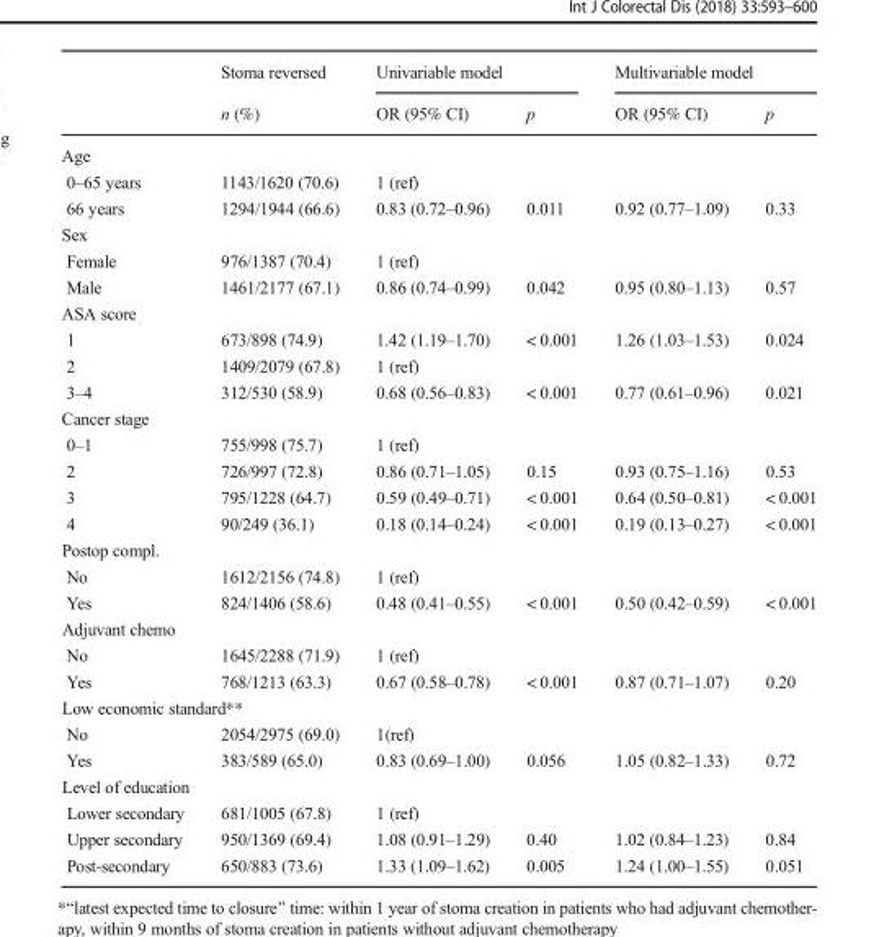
<table><thead><tr><td rowspan="2"></td><td rowspan="2">Stoma reversed n (%)</td><td colspan="2">Univariable model</td><td colspan="2">Multivariable model</td></tr><tr><td>OR (95% CI)</td><td>p</td><td>OR (95% CI)</td><td>p</td></tr></thead><tbody><tr><td colspan="6">Age</td></tr><tr><td>0–65 years</td><td>1143/1620 (70.6)</td><td>1 (ref)</td><td></td><td></td><td></td></tr><tr><td>66 years</td><td>1294/1944 (66.6)</td><td>0.83 (0.72–0.96)</td><td>0.011</td><td>0.92 (0.77–1.09)</td><td>0.33</td></tr><tr><td colspan="6">Sex</td></tr><tr><td>Female</td><td>976/1387 (70.4)</td><td>1 (ref)</td><td></td><td></td><td></td></tr><tr><td>Male</td><td>1461/2177 (67.1)</td><td>0.86 (0.74–0.99)</td><td>0.042</td><td>0.95 (0.80–1.13)</td><td>0.57</td></tr><tr><td colspan="6">ASA score</td></tr><tr><td>1</td><td>673/898 (74.9)</td><td>1.42 (1.19–1.70)</td><td>&lt; 0.001</td><td>1.26 (1.03–1.53)</td><td>0.024</td></tr><tr><td>2</td><td>1409/2079 (67.8)</td><td>1 (ref)</td><td></td><td></td><td></td></tr><tr><td>3–4</td><td>312/530 (58.9)</td><td>0.68 (0.56–0.83)</td><td>&lt; 0.001</td><td>0.77 (0.61–0.96)</td><td>0.021</td></tr><tr><td colspan="6">Cancer stage</td></tr><tr><td>0–1</td><td>755/998 (75.7)</td><td>1 (ref)</td><td></td><td></td><td></td></tr><tr><td>2 3 4</td><td>726/997 (72.8) 795/1228 (64.7) 90/249 (36.1)</td><td>0.86 (0.71–1.05) 0.59 (0.49–0.71) 0.18 (0.14–0.24)</td><td>0.15 &lt; 0.001 &lt; 0.001</td><td>0.93 (0.75–1.16) 0.64 (0.50–0.81) 0.19 (0.13–0.27)</td><td>0.53 &lt; 0.001 &lt; 0.001</td></tr><tr><td colspan="6">Postop compl.</td></tr><tr><td>No</td><td>1612/2156 (74.8)</td><td>1 (ref)</td><td></td><td></td><td></td></tr><tr><td>Yes</td><td>824/1406 (58.6)</td><td>0.48 (0.41–0.55)</td><td>&lt; 0.001</td><td>0.50 (0.42–0.59)</td><td>&lt; 0.001</td></tr><tr><td colspan="6">Adjuvant chemo</td></tr><tr><td>No</td><td>1645/2288 (71.9)</td><td>1 (ref)</td><td></td><td></td><td></td></tr><tr><td>Yes</td><td>768/1213 (63.3)</td><td>0.67 (0.58–0.78)</td><td>&lt; 0.001</td><td>0.87 (0.71–1.07)</td><td>0.20</td></tr><tr><td colspan="6">Low economic standard**</td></tr><tr><td>No</td><td>2054/2975 (69.0)</td><td>1(ref)</td><td></td><td></td><td></td></tr><tr><td>Yes</td><td>383/589 (65.0)</td><td>0.83 (0.69–1.00)</td><td>0.056</td><td>1.05 (0.82–1.33)</td><td>0.72</td></tr><tr><td colspan="6">Level of education</td></tr><tr><td>Lower secondary</td><td>681/1005 (67.8)</td><td>1 (ref)</td><td></td><td></td><td></td></tr><tr><td>Upper secondary Post-secondary</td><td>950/1369 (69.4) 650/883 (73.6)</td><td>1.08 (0.91–1.29) 1.33 (1.09–1.62)</td><td>0.40 0.005</td><td>1.02 (0.84–1.23) 1.24 (1.00–1.55)</td><td>0.84 0.051</td></tr></tbody></table>